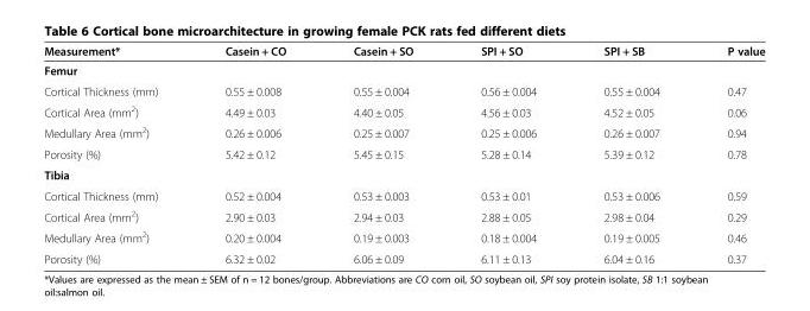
<table><thead><tr><td>Measurement*</td><td>Casein + CO</td><td>Casein + SO</td><td>SPI + SO</td><td>SPI + SB</td><td>P value</td></tr></thead><tbody><tr><td colspan="6">Femur</td></tr><tr><td>Cortical Thickness (mm)</td><td>0.55 ± 0.008</td><td>0.55 ± 0.004</td><td>0.56 ± 0.004</td><td>0.55 ± 0.004</td><td>0.47</td></tr><tr><td>Cortical Area (mm<sup>2</sup>)</td><td>4.49 ± 0.03</td><td>4.40 ± 0.05</td><td>4.56 ± 0.03</td><td>4.52 ± 0.05</td><td>0.06</td></tr><tr><td>Medullary Area (mm<sup>2</sup>)</td><td>0.26 ± 0.006</td><td>0.25 ± 0.007</td><td>0.25 ± 0.006</td><td>0.26 ± 0.007</td><td>0.94</td></tr><tr><td>Porosity (%)</td><td>5.42 ± 0.12</td><td>5.45 ± 0.15</td><td>5.28 ± 0.14</td><td>5.39 ± 0.12</td><td>0.78</td></tr><tr><td colspan="6">Tibia</td></tr><tr><td>Cortical Thickness (mm)</td><td>0.52 ± 0.004</td><td>0.53 ± 0.003</td><td>0.53 ± 0.01</td><td>0.53 ± 0.006</td><td>0.59</td></tr><tr><td>Cortical Area (mm<sup>2</sup>)</td><td>2.90 ± 0.03</td><td>2.94 ± 0.03</td><td>2.88 ± 0.05</td><td>2.98 ± 0.04</td><td>0.29</td></tr><tr><td>Medullary Area (mm<sup>2</sup>)</td><td>0.20 ± 0.004</td><td>0.19 ± 0.003</td><td>0.18 ± 0.004</td><td>0.19 ± 0.005</td><td>0.46</td></tr><tr><td>Porosity (%)</td><td>6.32 ± 0.02</td><td>6.06 ± 0.09</td><td>6.11 ± 0.13</td><td>6.04 ± 0.16</td><td>0.37</td></tr></tbody></table>